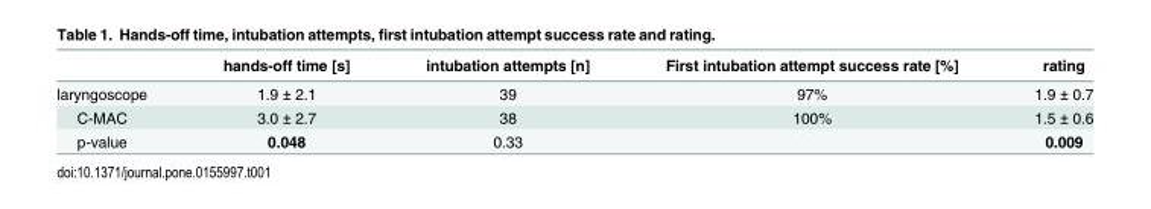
<table><thead><tr><td></td><td>hands-off time [s]</td><td>intubation attempts [n]</td><td>First intubation attempt success rate [%]</td><td>rating</td></tr></thead><tbody><tr><td>laryngoscope</td><td>1.9 ± 2.1</td><td>39</td><td>97%</td><td>1.9 ± 0.7</td></tr><tr><td>C-MAC</td><td>3.0 ± 2.7</td><td>38</td><td>100%</td><td>1.5 ± 0.6</td></tr><tr><td>p-value</td><td>0.048</td><td>0.33</td><td></td><td>0.009</td></tr></tbody></table>